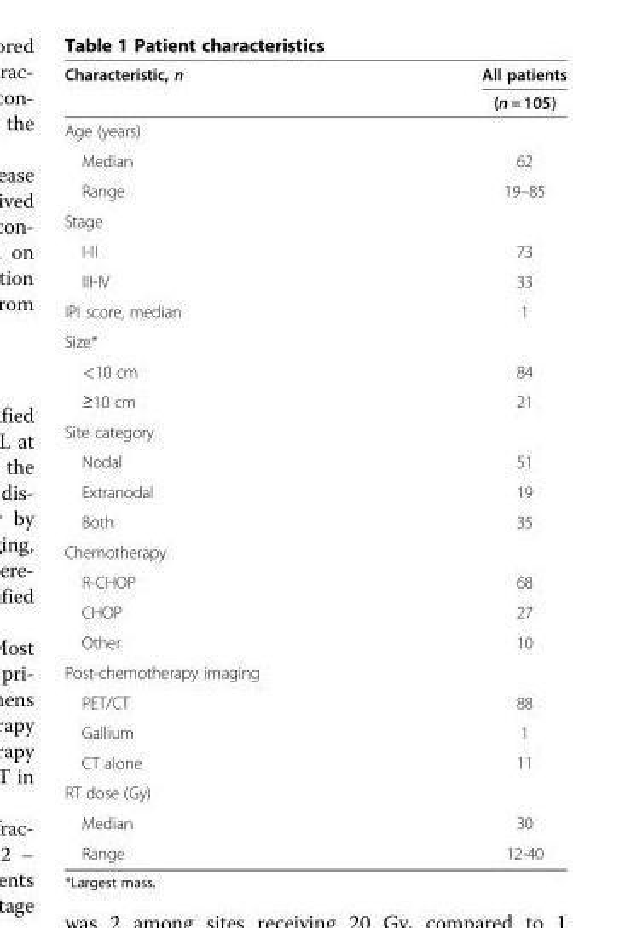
<table><thead><tr><td rowspan="2">Characteristic, n</td><td rowspan="2">All patients (n = 105)</td></tr><tr></tr></thead><tbody><tr><td colspan="2">Age (years)</td></tr><tr><td>Median</td><td>62</td></tr><tr><td>Range</td><td>19–85</td></tr><tr><td colspan="2">Stage</td></tr><tr><td>I-II</td><td>73</td></tr><tr><td>III-IV</td><td>33</td></tr><tr><td>IPI score, median</td><td>1</td></tr><tr><td colspan="2">Size*</td></tr><tr><td>&lt;10 cm</td><td>84</td></tr><tr><td>≥10 cm</td><td>21</td></tr><tr><td colspan="2">Site category</td></tr><tr><td>Nodal</td><td>51</td></tr><tr><td>Extranodal</td><td>19</td></tr><tr><td>Both</td><td>35</td></tr><tr><td colspan="2">Chemotherapy</td></tr><tr><td>R-CHOP</td><td>68</td></tr><tr><td>CHOP</td><td>27</td></tr><tr><td>Other</td><td>10</td></tr><tr><td colspan="2">Post-chemotherapy imaging</td></tr><tr><td>PET/CT</td><td>88</td></tr><tr><td>Gallium</td><td>1</td></tr><tr><td>CT alone</td><td>11</td></tr><tr><td colspan="2">RT dose (Gy)</td></tr><tr><td>Median</td><td>30</td></tr><tr><td>Range</td><td>12-40</td></tr></tbody></table>